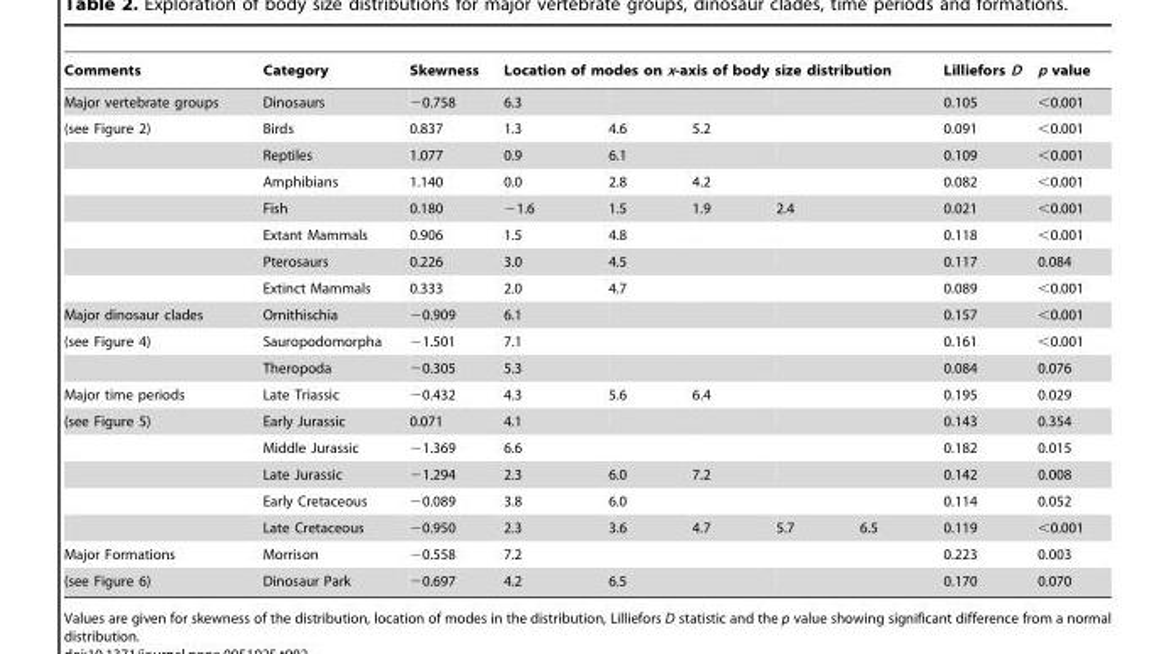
<table><thead><tr><td rowspan="2">Comments Major vertebrate groups</td><td rowspan="2">Category Dinosaurs</td><td rowspan="2">Skewness −0.758</td><td colspan="5">Location of modes on x-axis of body size distribution</td><td rowspan="2">Lilliefors D 0.105</td><td rowspan="2">p value &lt;0.001</td></tr><tr><td>6.3</td><td></td><td></td><td></td><td></td></tr></thead><tbody><tr><td rowspan="7">(see Figure 2)</td><td>Birds</td><td>0.837</td><td>1.3</td><td>4.6</td><td>5.2</td><td></td><td></td><td>0.091</td><td>&lt;0.001</td></tr><tr><td>Reptiles</td><td>1.077</td><td>0.9</td><td>6.1</td><td></td><td></td><td></td><td>0.109</td><td>&lt;0.001</td></tr><tr><td>Amphibians</td><td>1.140</td><td>0.0</td><td>2.8</td><td>4.2</td><td></td><td></td><td>0.082</td><td>&lt;0.001</td></tr><tr><td>Fish</td><td>0.180</td><td>−1.6</td><td>1.5</td><td>1.9</td><td>2.4</td><td></td><td>0.021</td><td>&lt;0.001</td></tr><tr><td>Extant Mammals</td><td>0.906</td><td>1.5</td><td>4.8</td><td></td><td></td><td></td><td>0.118</td><td>&lt;0.001</td></tr><tr><td>Pterosaurs</td><td>0.226</td><td>3.0</td><td>4.5</td><td></td><td></td><td></td><td>0.117</td><td>0.084</td></tr><tr><td>Extinct Mammals</td><td>0.333</td><td>2.0</td><td>4.7</td><td></td><td></td><td></td><td>0.089</td><td>&lt;0.001</td></tr><tr><td>Major dinosaur clades</td><td>Ornithischia</td><td>−0.909</td><td>6.1</td><td></td><td></td><td></td><td></td><td>0.157</td><td>&lt;0.001</td></tr><tr><td rowspan="2">(see Figure 4)</td><td>Sauropodomorpha</td><td>−1.501</td><td>7.1</td><td></td><td></td><td></td><td></td><td>0.161</td><td>&lt;0.001</td></tr><tr><td>Theropoda</td><td>−0.305</td><td>5.3</td><td></td><td></td><td></td><td></td><td>0.084</td><td>0.076</td></tr><tr><td>Major time periods</td><td>Late Triassic</td><td>−0.432</td><td>4.3</td><td>5.6</td><td>6.4</td><td></td><td></td><td>0.195</td><td>0.029</td></tr><tr><td rowspan="5">(see Figure 5)</td><td>Early Jurassic</td><td>0.071</td><td>4.1</td><td></td><td></td><td></td><td></td><td>0.143</td><td>0.354</td></tr><tr><td>Middle Jurassic</td><td>−1.369</td><td>6.6</td><td></td><td></td><td></td><td></td><td>0.182</td><td>0.015</td></tr><tr><td>Late Jurassic</td><td>−1.294</td><td>2.3</td><td>6.0</td><td>7.2</td><td></td><td></td><td>0.142</td><td>0.008</td></tr><tr><td>Early Cretaceous</td><td>−0.089</td><td>3.8</td><td>6.0</td><td></td><td></td><td></td><td>0.114</td><td>0.052</td></tr><tr><td>Late Cretaceous</td><td>−0.950</td><td>2.3</td><td>3.6</td><td>4.7</td><td>5.7</td><td>6.5</td><td>0.119</td><td>&lt;0.001</td></tr><tr><td>Major Formations</td><td>Morrison</td><td>−0.558</td><td>7.2</td><td></td><td></td><td></td><td></td><td>0.223</td><td>0.003</td></tr><tr><td>(see Figure 6)</td><td>Dinosaur Park</td><td>−0.697</td><td>4.2</td><td>6.5</td><td></td><td></td><td></td><td>0.170</td><td>0.070</td></tr></tbody></table>